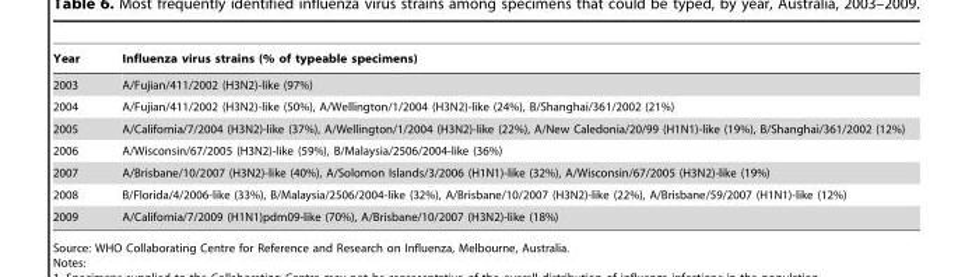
<table><thead><tr><td>Year</td><td>Influenza virus strains (% of typeable specimens)</td></tr></thead><tbody><tr><td>2003</td><td>A/Fujian/411/2002 (H3N2)-like (97%)</td></tr><tr><td>2004</td><td>A/Fujian/411/2002 (H3N2)-like (50%), A/Wellington/1/2004 (H3N2)-like (24%), B/Shanghai/361/2002 (21%)</td></tr><tr><td>2005</td><td>A/California/7/2004 (H3N2)-like (37%), A/Wellington/1/2004 (H3N2)-like (22%), A/New Caledonia/20/99 (H1N1)-like (19%), B/Shanghai/361/2002 (12%)</td></tr><tr><td>2006</td><td>A/Wisconsin/67/2005 (H3N2)-like (59%), B/Malaysia/2506/2004-like (36%)</td></tr><tr><td>2007</td><td>A/Brisbane/10/2007 (H3N2)-like (40%), A/Solomon Islands/3/2006 (H1N1)-like (32%), A/Wisconsin/67/2005 (H3N2)-like (19%)</td></tr><tr><td>2008</td><td>B/Florida/4/2006-like (33%), B/Malaysia/2506/2004-like (32%), A/Brisbane/10/2007 (H3N2)-like (22%), A/Brisbane/59/2007 (H1N1)-like (12%)</td></tr><tr><td>2009</td><td>A/California/7/2009 (H1N1)pdm09-like (70%), A/Brisbane/10/2007 (H3N2)-like (18%)</td></tr></tbody></table>